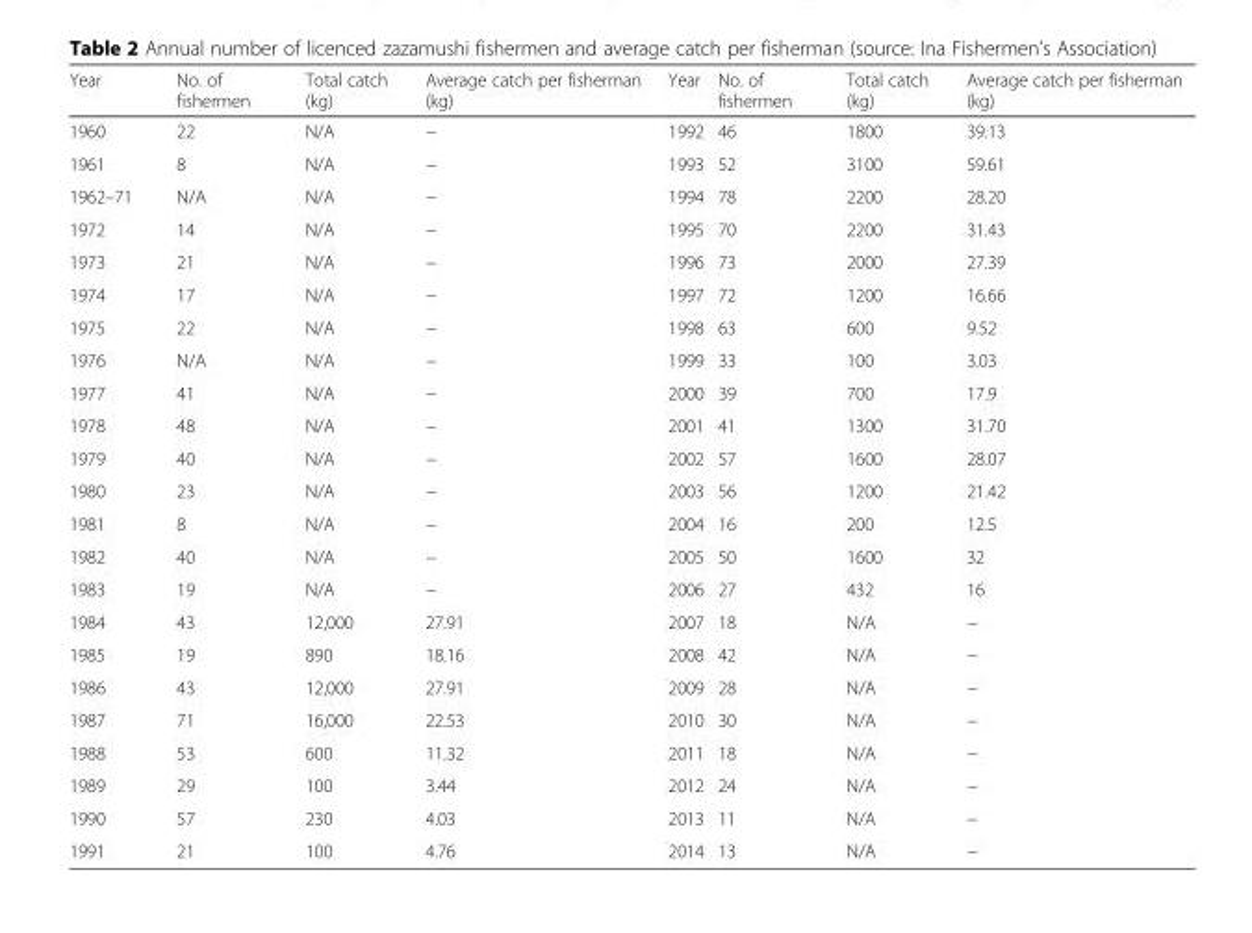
<table><thead><tr><td>Year</td><td>No. of fishermen</td><td>Total catch (kg)</td><td>Average catch per fisherman (kg)</td><td>Year</td><td>No. of fishermen</td><td>Total catch (kg)</td><td>Average catch per fisherman (kg)</td></tr></thead><tbody><tr><td>1960</td><td>22</td><td>N/A</td><td>−</td><td>1992</td><td>46</td><td>1800</td><td>39.13</td></tr><tr><td>1961</td><td>8</td><td>N/A</td><td>−</td><td>1993</td><td>52</td><td>3100</td><td>59.61</td></tr><tr><td>1962–71</td><td>N/A</td><td>N/A</td><td>−</td><td>1994</td><td>78</td><td>2200</td><td>28.20</td></tr><tr><td>1972</td><td>14</td><td>N/A</td><td>−</td><td>1995</td><td>70</td><td>2200</td><td>31.43</td></tr><tr><td>1973</td><td>21</td><td>N/A</td><td>−</td><td>1996</td><td>73</td><td>2000</td><td>27.39</td></tr><tr><td>1974</td><td>17</td><td>N/A</td><td>−</td><td>1997</td><td>72</td><td>1200</td><td>16.66</td></tr><tr><td>1975</td><td>22</td><td>N/A</td><td>−</td><td>1998</td><td>63</td><td>600</td><td>9.52</td></tr><tr><td>1976</td><td>N/A</td><td>N/A</td><td>−</td><td>1999</td><td>33</td><td>100</td><td>3.03</td></tr><tr><td>1977</td><td>41</td><td>N/A</td><td>−</td><td>2000</td><td>39</td><td>700</td><td>17.9</td></tr><tr><td>1978</td><td>48</td><td>N/A</td><td>−</td><td>2001</td><td>41</td><td>1300</td><td>31.70</td></tr><tr><td>1979</td><td>40</td><td>N/A</td><td>−</td><td>2002</td><td>57</td><td>1600</td><td>28.07</td></tr><tr><td>1980</td><td>23</td><td>N/A</td><td>−</td><td>2003</td><td>56</td><td>1200</td><td>21.42</td></tr><tr><td>1981</td><td>8</td><td>N/A</td><td>−</td><td>2004</td><td>16</td><td>200</td><td>12.5</td></tr><tr><td>1982</td><td>40</td><td>N/A</td><td>−</td><td>2005</td><td>50</td><td>1600</td><td>32</td></tr><tr><td>1983</td><td>19</td><td>N/A</td><td>−</td><td>2006</td><td>27</td><td>432</td><td>16</td></tr><tr><td>1984</td><td>43</td><td>12,000</td><td>27.91</td><td>2007</td><td>18</td><td>N/A</td><td>−</td></tr><tr><td>1985</td><td>19</td><td>890</td><td>18.16</td><td>2008</td><td>42</td><td>N/A</td><td>−</td></tr><tr><td>1986</td><td>43</td><td>12,000</td><td>27.91</td><td>2009</td><td>28</td><td>N/A</td><td>−</td></tr><tr><td>1987</td><td>71</td><td>16,000</td><td>22.53</td><td>2010</td><td>30</td><td>N/A</td><td>−</td></tr><tr><td>1988</td><td>53</td><td>600</td><td>11.32</td><td>2011</td><td>18</td><td>N/A</td><td>−</td></tr><tr><td>1989</td><td>29</td><td>100</td><td>3.44</td><td>2012</td><td>24</td><td>N/A</td><td>−</td></tr><tr><td>1990</td><td>57</td><td>230</td><td>4.03</td><td>2013</td><td>11</td><td>N/A</td><td>−</td></tr><tr><td>1991</td><td>21</td><td>100</td><td>4.76</td><td>2014</td><td>13</td><td>N/A</td><td>−</td></tr></tbody></table>